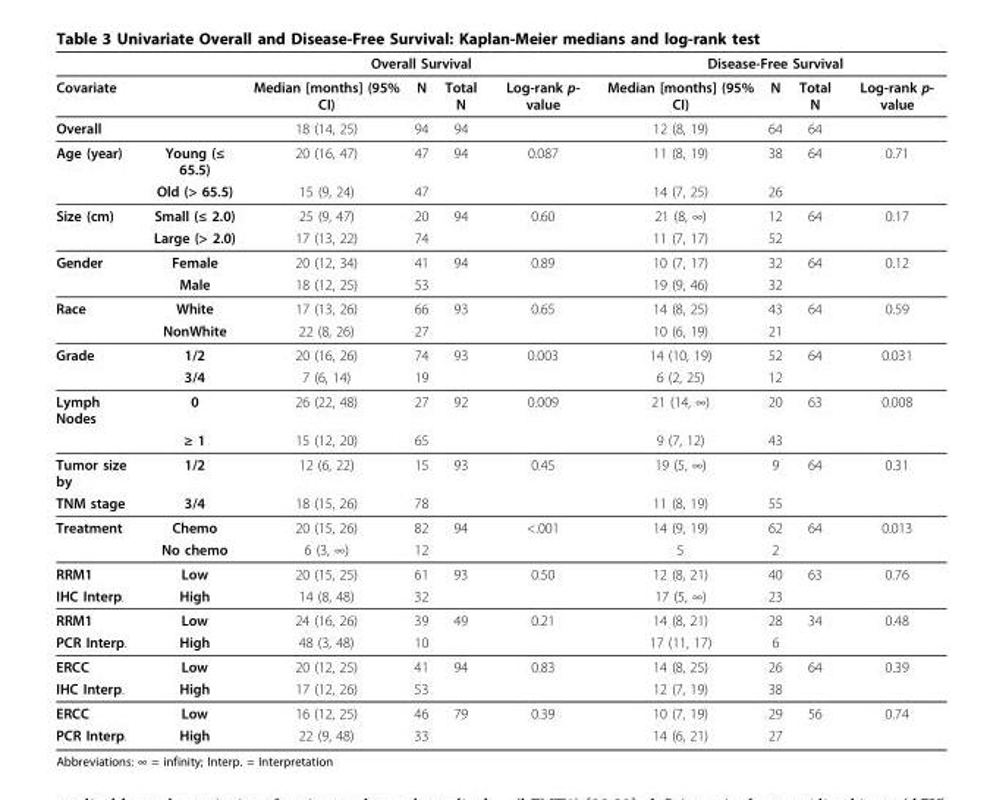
<table><thead><tr><td rowspan="2">Covariate</td><td rowspan="2"></td><td colspan="4">Overall Survival</td><td colspan="4">Disease-Free Survival</td></tr><tr><td>Median [months] (95% CI)</td><td>N</td><td>Total N</td><td>Log-rank p- value</td><td>Median [months] (95% CI)</td><td>N</td><td>Total N</td><td>Log-rank p- value</td></tr></thead><tbody><tr><td>Overall</td><td></td><td>18 (14, 25)</td><td>94</td><td>94</td><td></td><td>12 (8, 19)</td><td>64</td><td>64</td><td></td></tr><tr><td rowspan="2">Age (year)</td><td>Young (≤ 65.5)</td><td>20 (16, 47)</td><td>47</td><td>94</td><td>0.087</td><td>11 (8, 19)</td><td>38</td><td>64</td><td>0.71</td></tr><tr><td>Old (&gt; 65.5)</td><td>15 (9, 24)</td><td>47</td><td></td><td></td><td>14 (7, 25)</td><td>26</td><td></td><td></td></tr><tr><td rowspan="2">Size (cm)</td><td>Small (≤ 2.0)</td><td>25 (9, 47)</td><td>20</td><td>94</td><td>0.60</td><td>21 (8, ∞)</td><td>12</td><td>64</td><td>0.17</td></tr><tr><td>Large (&gt; 2.0)</td><td>17 (13, 22)</td><td>74</td><td></td><td></td><td>11 (7, 17)</td><td>52</td><td></td><td></td></tr><tr><td rowspan="2">Gender</td><td>Female</td><td>20 (12, 34)</td><td>41</td><td>94</td><td>0.89</td><td>10 (7, 17)</td><td>32</td><td>64</td><td>0.12</td></tr><tr><td>Male</td><td>18 (12, 25)</td><td>53</td><td></td><td></td><td>19 (9, 46)</td><td>32</td><td></td><td></td></tr><tr><td rowspan="2">Race</td><td>White</td><td>17 (13, 26)</td><td>66</td><td>93</td><td>0.65</td><td>14 (8, 25)</td><td>43</td><td>64</td><td>0.59</td></tr><tr><td>NonWhite</td><td>22 (8, 26)</td><td>27</td><td></td><td></td><td>10 (6, 19)</td><td>21</td><td></td><td></td></tr><tr><td rowspan="2">Grade</td><td>1/2</td><td>20 (16, 26)</td><td>74</td><td>93</td><td>0.003</td><td>14 (10, 19)</td><td>52</td><td>64</td><td>0.031</td></tr><tr><td>3/4</td><td>7 (6, 14)</td><td>19</td><td></td><td></td><td>6 (2, 25)</td><td>12</td><td></td><td></td></tr><tr><td rowspan="2">Lymph Nodes</td><td>0</td><td>26 (22, 48)</td><td>27</td><td>92</td><td>0.009</td><td>21 (14, ∞)</td><td>20</td><td>63</td><td>0.008</td></tr><tr><td>≥ 1</td><td>15 (12, 20)</td><td>65</td><td></td><td></td><td>9 (7, 12)</td><td>43</td><td></td><td></td></tr><tr><td>Tumor size by</td><td>1/2</td><td>12 (6, 22)</td><td>15</td><td>93</td><td>0.45</td><td>19 (5, ∞)</td><td>9</td><td>64</td><td>0.31</td></tr><tr><td>TNM stage</td><td>3/4</td><td>18 (15, 26)</td><td>78</td><td></td><td></td><td>11 (8, 19)</td><td>55</td><td></td><td></td></tr><tr><td rowspan="2">Treatment</td><td>Chemo</td><td>20 (15, 26)</td><td>82</td><td>94</td><td>&lt;.001</td><td>14 (9, 19)</td><td>62</td><td>64</td><td>0.013</td></tr><tr><td>No chemo</td><td>6 (3, ∞)</td><td>12</td><td></td><td></td><td>5</td><td>2</td><td></td><td></td></tr><tr><td>RRM1</td><td>Low</td><td>20 (15, 25)</td><td>61</td><td>93</td><td>0.50</td><td>12 (8, 21)</td><td>40</td><td>63</td><td>0.76</td></tr><tr><td>IHC Interp.</td><td>High</td><td>14 (8, 48)</td><td>32</td><td></td><td></td><td>17 (5, ∞)</td><td>23</td><td></td><td></td></tr><tr><td>RRM1</td><td>Low</td><td>24 (16, 26)</td><td>39</td><td>49</td><td>0.21</td><td>14 (8, 21)</td><td>28</td><td>34</td><td>0.48</td></tr><tr><td>PCR Interp.</td><td>High</td><td>48 (3, 48)</td><td>10</td><td></td><td></td><td>17 (11, 17)</td><td>6</td><td></td><td></td></tr><tr><td>ERCC</td><td>Low</td><td>20 (12, 25)</td><td>41</td><td>94</td><td>0.83</td><td>14 (8, 25)</td><td>26</td><td>64</td><td>0.39</td></tr><tr><td>IHC Interp.</td><td>High</td><td>17 (12, 26)</td><td>53</td><td></td><td></td><td>12 (7, 19)</td><td>38</td><td></td><td></td></tr><tr><td>ERCC</td><td>Low</td><td>16 (12, 25)</td><td>46</td><td>79</td><td>0.39</td><td>10 (7, 19)</td><td>29</td><td>56</td><td>0.74</td></tr><tr><td>PCR Interp.</td><td>High</td><td>22 (9, 48)</td><td>33</td><td></td><td></td><td>14 (6, 21)</td><td>27</td><td></td><td></td></tr></tbody></table>